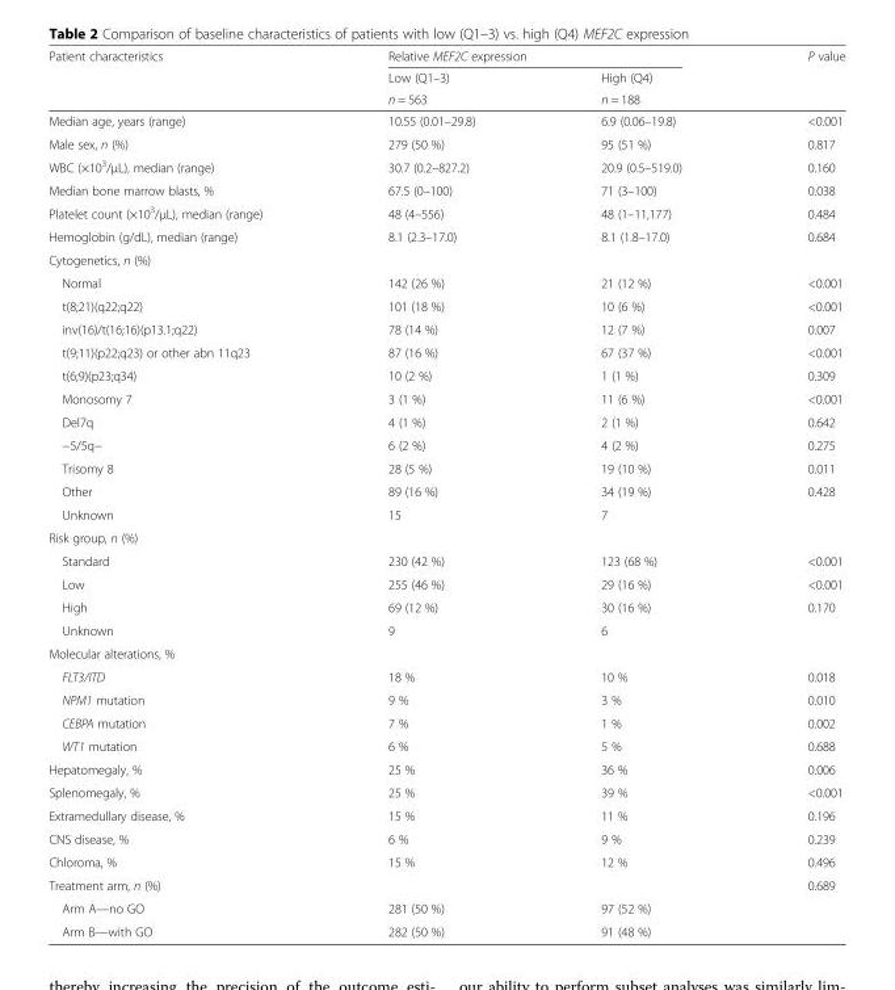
<table><thead><tr><td rowspan="3">Patient characteristics</td><td colspan="2">Relative MEF2C expression</td><td rowspan="3">P value</td></tr><tr><td rowspan="2">Low (Q1–3) n = 563</td><td rowspan="2">High (Q4) n = 188</td></tr><tr></tr></thead><tbody><tr><td>Median age, years (range)</td><td>10.55 (0.01–29.8)</td><td>6.9 (0.06–19.8)</td><td>&lt;0.001</td></tr><tr><td>Male sex, n (%)</td><td>279 (50 %)</td><td>95 (51 %)</td><td>0.817</td></tr><tr><td>WBC (×10<sup>3</sup>/μL), median (range)</td><td>30.7 (0.2–827.2)</td><td>20.9 (0.5–519.0)</td><td>0.160</td></tr><tr><td>Median bone marrow blasts, %</td><td>67.5 (0–100)</td><td>71 (3–100)</td><td>0.038</td></tr><tr><td>Platelet count (×10<sup>3</sup>/μL), median (range)</td><td>48 (4–556)</td><td>48 (1–11,177)</td><td>0.484</td></tr><tr><td>Hemoglobin (g/dL), median (range)</td><td>8.1 (2.3–17.0)</td><td>8.1 (1.8–17.0)</td><td>0.684</td></tr><tr><td colspan="4">Cytogenetics, n (%)</td></tr><tr><td>Normal</td><td>142 (26 %)</td><td>21 (12 %)</td><td>&lt;0.001</td></tr><tr><td>t(8;21)(q22;q22)</td><td>101 (18 %)</td><td>10 (6 %)</td><td>&lt;0.001</td></tr><tr><td>inv(16)/t(16;16)(p13.1;q22)</td><td>78 (14 %)</td><td>12 (7 %)</td><td>0.007</td></tr><tr><td>t(9;11)(p22;q23) or other abn 11q23</td><td>87 (16 %)</td><td>67 (37 %)</td><td>&lt;0.001</td></tr><tr><td>t(6;9)(p23;q34)</td><td>10 (2 %)</td><td>1 (1 %)</td><td>0.309</td></tr><tr><td>Monosomy 7</td><td>3 (1 %)</td><td>11 (6 %)</td><td>&lt;0.001</td></tr><tr><td>Del7q</td><td>4 (1 %)</td><td>2 (1 %)</td><td>0.642</td></tr><tr><td>−5/5q−</td><td>6 (2 %)</td><td>4 (2 %)</td><td>0.275</td></tr><tr><td>Trisomy 8</td><td>28 (5 %)</td><td>19 (10 %)</td><td>0.011</td></tr><tr><td>Other</td><td>89 (16 %)</td><td>34 (19 %)</td><td>0.428</td></tr><tr><td>Unknown</td><td>15</td><td>7</td><td></td></tr><tr><td colspan="4">Risk group, n (%)</td></tr><tr><td>Standard</td><td>230 (42 %)</td><td>123 (68 %)</td><td>&lt;0.001</td></tr><tr><td>Low</td><td>255 (46 %)</td><td>29 (16 %)</td><td>&lt;0.001</td></tr><tr><td>High</td><td>69 (12 %)</td><td>30 (16 %)</td><td>0.170</td></tr><tr><td>Unknown</td><td>9</td><td>6</td><td></td></tr><tr><td colspan="4">Molecular alterations, %</td></tr><tr><td>FLT3/ITD</td><td>18 %</td><td>10 %</td><td>0.018</td></tr><tr><td>NPM1 mutation</td><td>9 %</td><td>3 %</td><td>0.010</td></tr><tr><td>CEBPA mutation</td><td>7 %</td><td>1 %</td><td>0.002</td></tr><tr><td>WT1 mutation</td><td>6 %</td><td>5 %</td><td>0.688</td></tr><tr><td>Hepatomegaly, %</td><td>25 %</td><td>36 %</td><td>0.006</td></tr><tr><td>Splenomegaly, %</td><td>25 %</td><td>39 %</td><td>&lt;0.001</td></tr><tr><td>Extramedullary disease, %</td><td>15 %</td><td>11 %</td><td>0.196</td></tr><tr><td>CNS disease, %</td><td>6 %</td><td>9 %</td><td>0.239</td></tr><tr><td>Chloroma, %</td><td>15 %</td><td>12 %</td><td>0.496</td></tr><tr><td>Treatment arm, n (%)</td><td></td><td></td><td>0.689</td></tr><tr><td>Arm A—no GO</td><td>281 (50 %)</td><td>97 (52 %)</td><td></td></tr><tr><td>Arm B—with GO</td><td>282 (50 %)</td><td>91 (48 %)</td><td></td></tr></tbody></table>